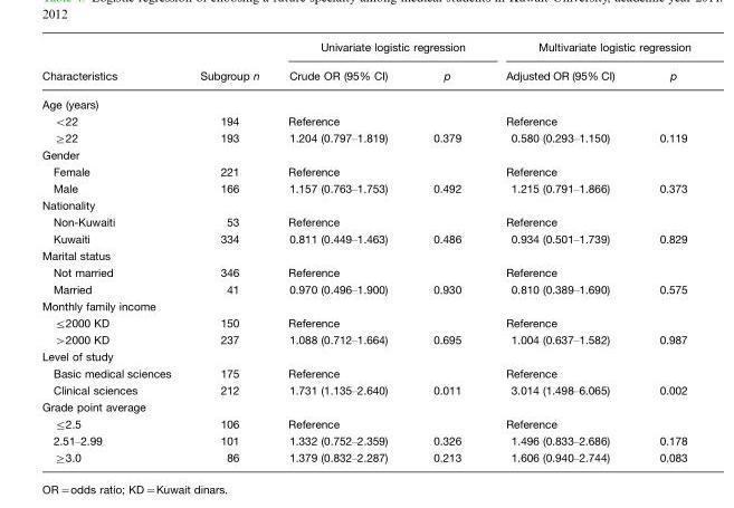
<table><thead><tr><td rowspan="2">Characteristics</td><td rowspan="2">Subgroup n</td><td colspan="2">Univariate logistic regression</td><td colspan="2">Multivariate logistic regression</td></tr><tr><td>Crude OR (95% CI)</td><td>p</td><td>Adjusted OR (95% CI)</td><td>p</td></tr></thead><tbody><tr><td colspan="6">Age (years)</td></tr><tr><td>&lt;22</td><td>194</td><td>Reference</td><td></td><td>Reference</td><td></td></tr><tr><td>≥22</td><td>193</td><td>1.204 (0.797–1.819)</td><td>0.379</td><td>0.580 (0.293–1.150)</td><td>0.119</td></tr><tr><td colspan="6">Gender</td></tr><tr><td>Female</td><td>221</td><td>Reference</td><td></td><td>Reference</td><td></td></tr><tr><td>Male</td><td>166</td><td>1.157 (0.763–1.753)</td><td>0.492</td><td>1.215 (0.791–1.866)</td><td>0.373</td></tr><tr><td colspan="6">Nationality</td></tr><tr><td>Non-Kuwaiti</td><td>53</td><td>Reference</td><td></td><td>Reference</td><td></td></tr><tr><td>Kuwaiti</td><td>334</td><td>0.811 (0.449–1.463)</td><td>0.486</td><td>0.934 (0.501–1.739)</td><td>0.829</td></tr><tr><td colspan="6">Marital status</td></tr><tr><td>Not married</td><td>346</td><td>Reference</td><td></td><td>Reference</td><td></td></tr><tr><td>Married</td><td>41</td><td>0.970 (0.496–1.900)</td><td>0.930</td><td>0.810 (0.389–1.690)</td><td>0.575</td></tr><tr><td colspan="6">Monthly family income</td></tr><tr><td>≤2000 KD</td><td>150</td><td>Reference</td><td></td><td>Reference</td><td></td></tr><tr><td>&gt;2000 KD</td><td>237</td><td>1.088 (0.712–1.664)</td><td>0.695</td><td>1.004 (0.637–1.582)</td><td>0.987</td></tr><tr><td colspan="6">Level of study</td></tr><tr><td>Basic medical sciences</td><td>175</td><td>Reference</td><td></td><td>Reference</td><td></td></tr><tr><td>Clinical sciences</td><td>212</td><td>1.731 (1.135–2.640)</td><td>0.011</td><td>3.014 (1.498–6.065)</td><td>0.002</td></tr><tr><td colspan="6">Grade point average</td></tr><tr><td>≤2.5</td><td>106</td><td>Reference</td><td></td><td>Reference</td><td></td></tr><tr><td>2.51–2.99</td><td>101</td><td>1.332 (0.752–2.359)</td><td>0.326</td><td>1.496 (0.833–2.686)</td><td>0.178</td></tr><tr><td>≥3.0</td><td>86</td><td>1.379 (0.832–2.287)</td><td>0.213</td><td>1.606 (0.940–2.744)</td><td>0.083</td></tr></tbody></table>